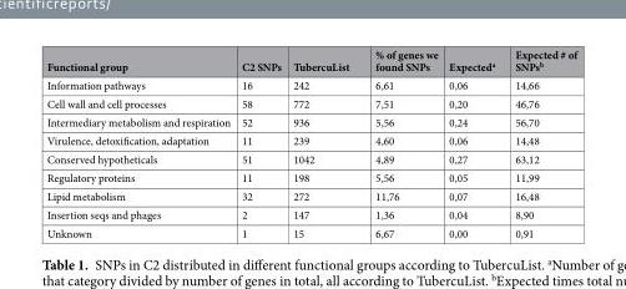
<table><thead><tr><td>Functional group</td><td>C2 SNPs</td><td>TubercuList</td><td>% of genes we found SNPs</td><td>Expected<sup>a</sup></td><td>Expected # of SNPs<sup>b</sup></td></tr></thead><tbody><tr><td>Information pathways</td><td>16</td><td>242</td><td>6,61</td><td>0,06</td><td>14,66</td></tr><tr><td>Cell wall and cell processes</td><td>58</td><td>772</td><td>7,51</td><td>0,20</td><td>46,76</td></tr><tr><td>Intermediary metabolism and respiration</td><td>52</td><td>936</td><td>5,56</td><td>0,24</td><td>56,70</td></tr><tr><td>Virulence, detoxification, adaptation</td><td>11</td><td>239</td><td>4,60</td><td>0,06</td><td>14,48</td></tr><tr><td>Conserved hypotheticals</td><td>51</td><td>1042</td><td>4,89</td><td>0,27</td><td>63,12</td></tr><tr><td>Regulatory proteins</td><td>11</td><td>198</td><td>5,56</td><td>0,05</td><td>11,99</td></tr><tr><td>Lipid metabolism</td><td>32</td><td>272</td><td>11,76</td><td>0,07</td><td>16,48</td></tr><tr><td>Insertion seqs and phages</td><td>2</td><td>147</td><td>1,36</td><td>0,04</td><td>8,90</td></tr><tr><td>Unknown</td><td>1</td><td>15</td><td>6,67</td><td>0,00</td><td>0,91</td></tr></tbody></table>